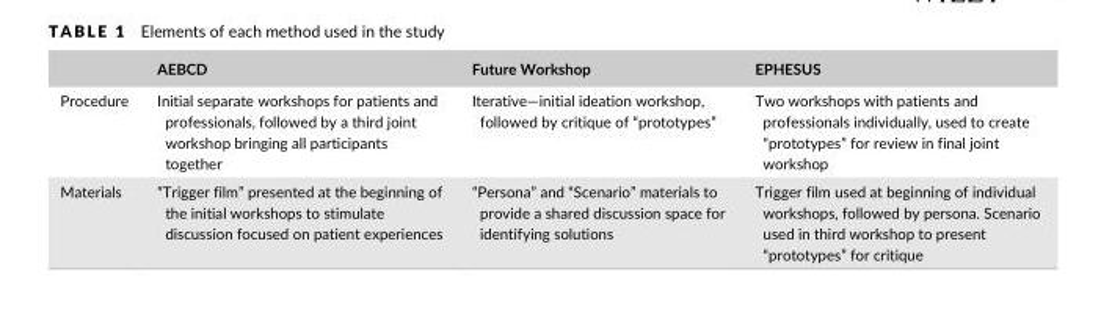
<table><thead><tr><td></td><td>AEBCD</td><td>Future Workshop</td><td>EPHESUS</td></tr></thead><tbody><tr><td>Procedure</td><td>Initial separate workshops for patients and professionals, followed by a third joint workshop bringing all participants together</td><td>Iterative—initial ideation workshop, followed by critique of “prototypes”</td><td>Two workshops with patients and professionals individually, used to create “prototypes” for review in final joint workshop</td></tr><tr><td>Materials</td><td>“Trigger film” presented at the beginning of the initial workshops to stimulate discussion focused on patient experiences</td><td>“Persona” and “Scenario” materials to provide a shared discussion space for identifying solutions</td><td>Trigger film used at beginning of individual workshops, followed by persona. Scenario used in third workshop to present “prototypes” for critique</td></tr></tbody></table>